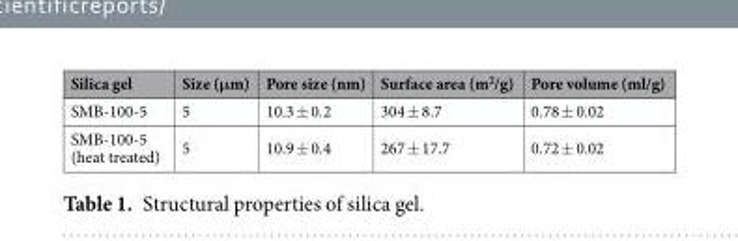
<table><thead><tr><td>Silica gel</td><td>Size (μm)</td><td>Pore size (nm)</td><td>Surface area (m<sup>2</sup>/g)</td><td>Pore volume (ml/g)</td></tr></thead><tbody><tr><td>SMB-100-5</td><td>5</td><td>10.3 ± 0.2</td><td>304 ± 8.7</td><td>0.78 ± 0.02</td></tr><tr><td>SMB-100-5 (heat treated)</td><td>5</td><td>10.9 ± 0.4</td><td>267 ± 17.7</td><td>0.72 ± 0.02</td></tr></tbody></table>